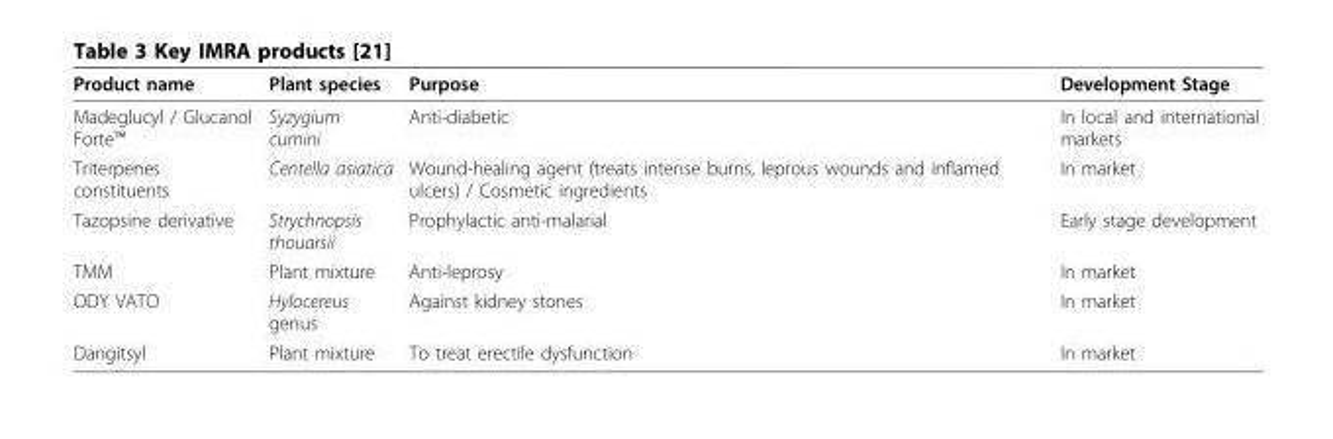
<table><thead><tr><td>Product name</td><td>Plant species</td><td>Purpose</td><td>Development Stage</td></tr></thead><tbody><tr><td>Madeglucyl / Glucanol Forte™</td><td>Syzygium cumini</td><td>Anti-diabetic</td><td>In local and international markets</td></tr><tr><td>Triterpenes constituents</td><td>Centella asiatica</td><td>Wound-healing agent (treats intense burns, leprous wounds and inflamed ulcers) / Cosmetic ingredients</td><td>In market</td></tr><tr><td>Tazopsine derivative</td><td>Strychnopsis thouarsii</td><td>Prophylactic anti-malarial</td><td>Early stage development</td></tr><tr><td>TMM</td><td>Plant mixture</td><td>Anti-leprosy</td><td>In market</td></tr><tr><td>ODY VATO</td><td>Hylocereus genus</td><td>Against kidney stones</td><td>In market</td></tr><tr><td>Dangitsyl</td><td>Plant mixture</td><td>To treat erectile dysfunction</td><td>In market</td></tr></tbody></table>